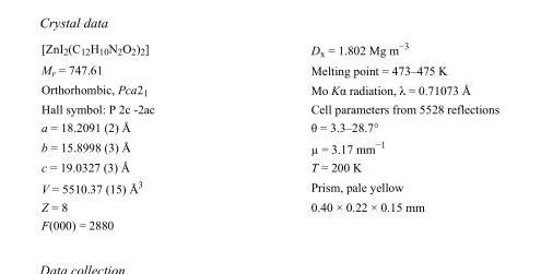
<table><tbody><tr><td>[ZnI<sub>2</sub>(C<sub>12</sub>H<sub>10</sub>N<sub>2</sub>O<sub>2</sub>)<sub>2</sub>]</td><td>D<sub>x</sub> = 1.802 Mg m<sup>−3</sup></td></tr><tr><td>M<sub>r</sub> = 747.61</td><td>Melting point = 473–475 K</td></tr><tr><td>Orthorhombic, Pca2<sub>1</sub></td><td>Mo Kα radiation, λ = 0.71073 Å</td></tr><tr><td>Hall symbol: P 2c -2ac</td><td>Cell parameters from 5528 reflections</td></tr><tr><td>a = 18.2091 (2) Å</td><td>θ = 3.3–28.7°</td></tr><tr><td>b = 15.8998 (3) Å</td><td>µ = 3.17 mm<sup>−1</sup></td></tr><tr><td>c = 19.0327 (3) Å</td><td>T = 200 K</td></tr><tr><td>V = 5510.37 (15) Å<sup>3</sup></td><td>Prism, pale yellow</td></tr><tr><td>Z = 8</td><td>0.40 × 0.22 × 0.15 mm</td></tr><tr><td>F(000) = 2880</td><td></td></tr></tbody></table>